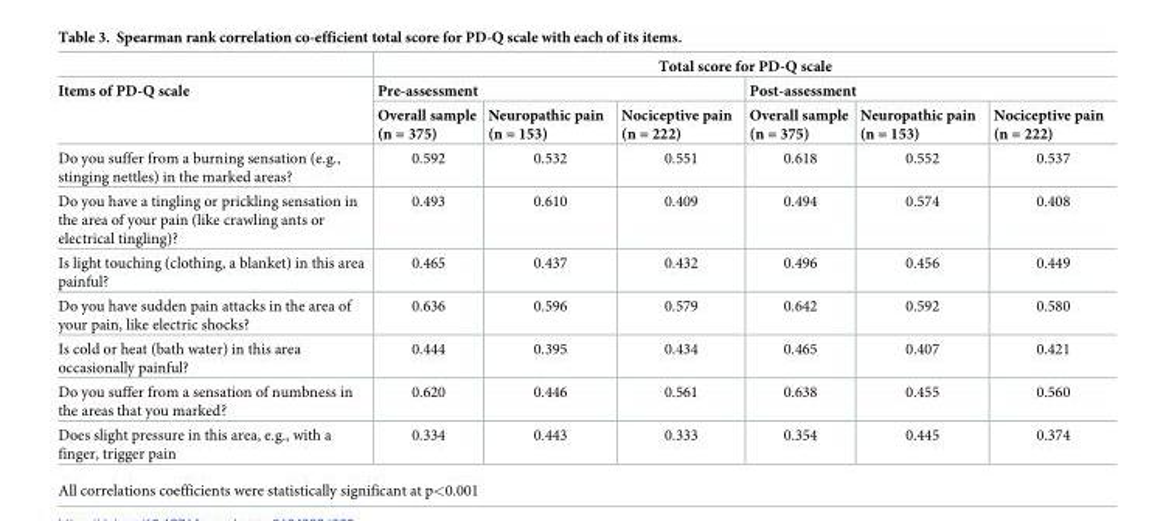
<table><thead><tr><td rowspan="3">Items of PD-Q scale</td><td colspan="6">Total score for PD-Q scale</td></tr><tr><td colspan="3">Pre-assessment</td><td colspan="3">Post-assessment</td></tr><tr><td>Overall sample (n = 375)</td><td>Neuropathic pain (n = 153)</td><td>Nociceptive pain (n = 222)</td><td>Overall sample (n = 375)</td><td>Neuropathic pain (n = 153)</td><td>Nociceptive pain (n = 222)</td></tr></thead><tbody><tr><td>Do you suffer from a burning sensation (e.g., stinging nettles) in the marked areas?</td><td>0.592</td><td>0.532</td><td>0.551</td><td>0.618</td><td>0.552</td><td>0.537</td></tr><tr><td>Do you have a tingling or prickling sensation in the area of your pain (like crawling ants or electrical tingling)?</td><td>0.493</td><td>0.610</td><td>0.409</td><td>0.494</td><td>0.574</td><td>0.408</td></tr><tr><td>Is light touching (clothing, a blanket) in this area painful?</td><td>0.465</td><td>0.437</td><td>0.432</td><td>0.496</td><td>0.456</td><td>0.449</td></tr><tr><td>Do you have sudden pain attacks in the area of your pain, like electric shocks?</td><td>0.636</td><td>0.596</td><td>0.579</td><td>0.642</td><td>0.592</td><td>0.580</td></tr><tr><td>Is cold or heat (bath water) in this area occasionally painful?</td><td>0.444</td><td>0.395</td><td>0.434</td><td>0.465</td><td>0.407</td><td>0.421</td></tr><tr><td>Do you suffer from a sensation of numbness in the areas that you marked?</td><td>0.620</td><td>0.446</td><td>0.561</td><td>0.638</td><td>0.455</td><td>0.560</td></tr><tr><td>Does slight pressure in this area, e.g., with a finger, trigger pain</td><td>0.334</td><td>0.443</td><td>0.333</td><td>0.354</td><td>0.445</td><td>0.374</td></tr></tbody></table>